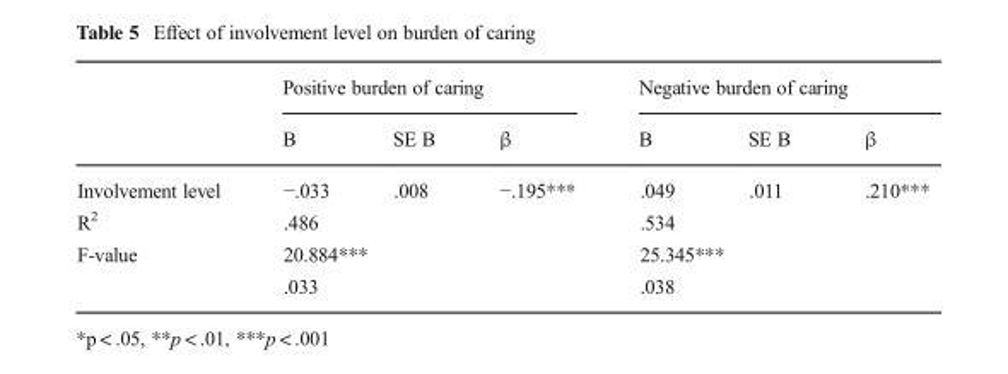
<table><thead><tr><td rowspan="2"></td><td colspan="3">Positive burden of caring</td><td colspan="3">Negative burden of caring</td></tr><tr><td>B</td><td>SE B</td><td>β</td><td>B</td><td>SE B</td><td>β</td></tr></thead><tbody><tr><td>Involvement level</td><td>−.033</td><td>.008</td><td>−.195***</td><td>.049</td><td>.011</td><td>.210***</td></tr><tr><td>R<sup>2</sup></td><td colspan="3">.486</td><td colspan="3">.534</td></tr><tr><td rowspan="2">F-value</td><td colspan="3">20.884***</td><td colspan="3">25.345***</td></tr><tr><td colspan="3">.033</td><td colspan="3">.038</td></tr></tbody></table>